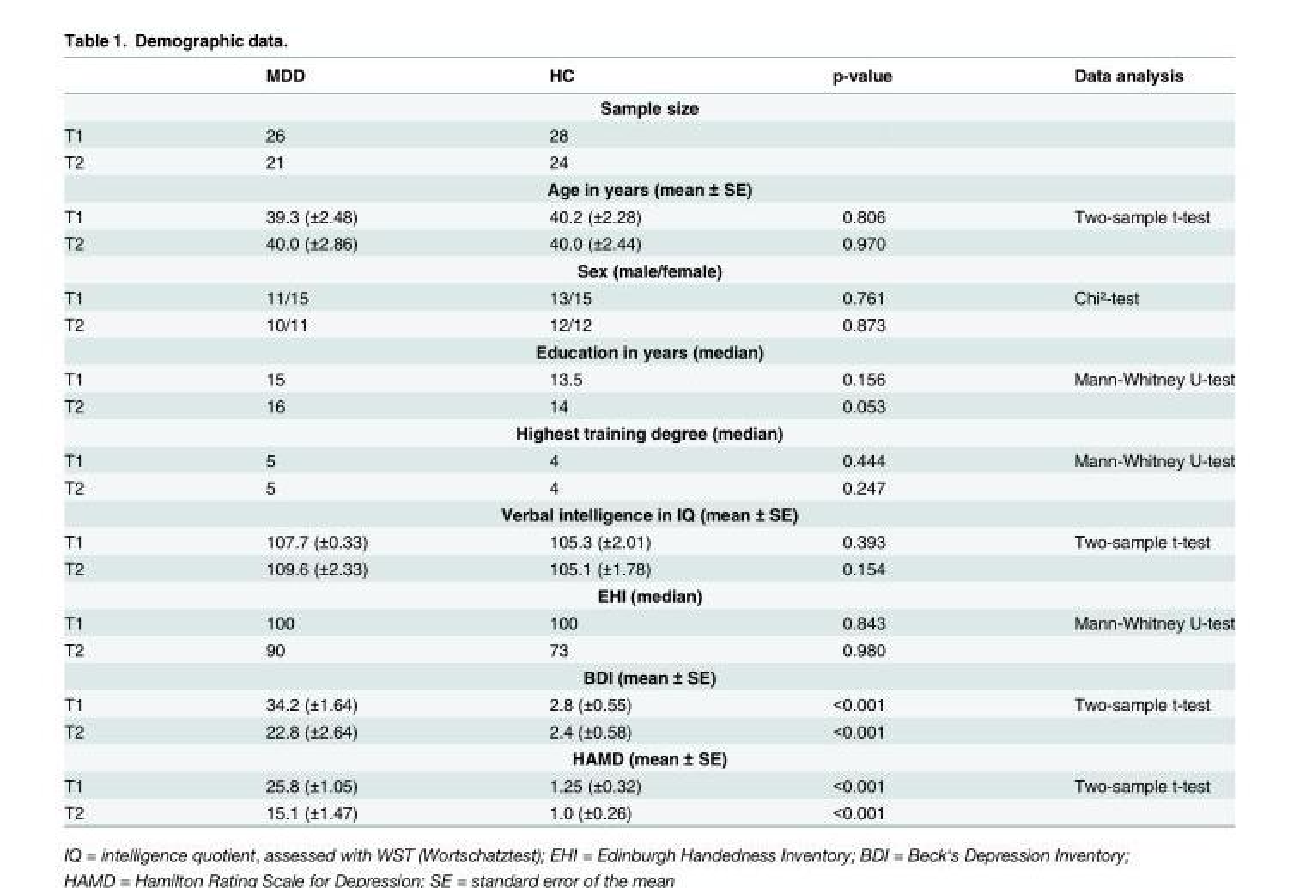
<table><thead><tr><td></td><td>MDD</td><td>HC</td><td>p-value</td><td>Data analysis</td></tr></thead><tbody><tr><td colspan="5">Sample size</td></tr><tr><td>T1</td><td>26</td><td>28</td><td></td><td></td></tr><tr><td>T2</td><td>21</td><td>24</td><td></td><td></td></tr><tr><td colspan="5">Age in years (mean ± SE)</td></tr><tr><td>T1</td><td>39.3 (±2.48)</td><td>40.2 (±2.28)</td><td>0.806</td><td>Two-sample t-test</td></tr><tr><td>T2</td><td>40.0 (±2.86)</td><td>40.0 (±2.44)</td><td>0.970</td><td></td></tr><tr><td colspan="5">Sex (male/female)</td></tr><tr><td>T1</td><td>11/15</td><td>13/15</td><td>0.761</td><td>Chi²-test</td></tr><tr><td>T2</td><td>10/11</td><td>12/12</td><td>0.873</td><td></td></tr><tr><td colspan="5">Education in years (median)</td></tr><tr><td>T1</td><td>15</td><td>13.5</td><td>0.156</td><td>Mann-Whitney U-test</td></tr><tr><td>T2</td><td>16</td><td>14</td><td>0.053</td><td></td></tr><tr><td colspan="5">Highest training degree (median)</td></tr><tr><td>T1</td><td>5</td><td>4</td><td>0.444</td><td>Mann-Whitney U-test</td></tr><tr><td>T2</td><td>5</td><td>4</td><td>0.247</td><td></td></tr><tr><td colspan="5">Verbal intelligence in IQ (mean ± SE)</td></tr><tr><td>T1</td><td>107.7 (±0.33)</td><td>105.3 (±2.01)</td><td>0.393</td><td>Two-sample t-test</td></tr><tr><td>T2</td><td>109.6 (±2.33)</td><td>105.1 (±1.78)</td><td>0.154</td><td></td></tr><tr><td colspan="5">EHI (median)</td></tr><tr><td>T1</td><td>100</td><td>100</td><td>0.843</td><td>Mann-Whitney U-test</td></tr><tr><td>T2</td><td>90</td><td>73</td><td>0.980</td><td></td></tr><tr><td colspan="5">BDI (mean ± SE)</td></tr><tr><td>T1</td><td>34.2 (±1.64)</td><td>2.8 (±0.55)</td><td>&lt;0.001</td><td>Two-sample t-test</td></tr><tr><td>T2</td><td>22.8 (±2.64)</td><td>2.4 (±0.58)</td><td>&lt;0.001</td><td></td></tr><tr><td colspan="5">HAMD (mean ± SE)</td></tr><tr><td>T1</td><td>25.8 (±1.05)</td><td>1.25 (±0.32)</td><td>&lt;0.001</td><td>Two-sample t-test</td></tr><tr><td>T2</td><td>15.1 (±1.47)</td><td>1.0 (±0.26)</td><td>&lt;0.001</td><td></td></tr></tbody></table>